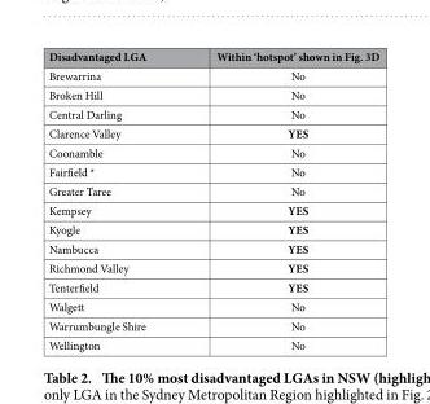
<table><thead><tr><td>Disadvantaged LGA</td><td>Within ‘hotspot’ shown in Fig. 3D</td></tr></thead><tbody><tr><td>Brewarrina</td><td>No</td></tr><tr><td>Broken Hill</td><td>No</td></tr><tr><td>Central Darling</td><td>No</td></tr><tr><td>Clarence Valley</td><td>YES</td></tr><tr><td>Coonamble</td><td>No</td></tr><tr><td>Fairfield *</td><td>No</td></tr><tr><td>Greater Taree</td><td>No</td></tr><tr><td>Kempsey</td><td>YES</td></tr><tr><td>Kyogle</td><td>YES</td></tr><tr><td>Nambucca</td><td>YES</td></tr><tr><td>Richmond Valley</td><td>YES</td></tr><tr><td>Tenterfield</td><td>YES</td></tr><tr><td>Walgett</td><td>No</td></tr><tr><td>Warrumbungle Shire</td><td>No</td></tr><tr><td>Wellington</td><td>No</td></tr></tbody></table>